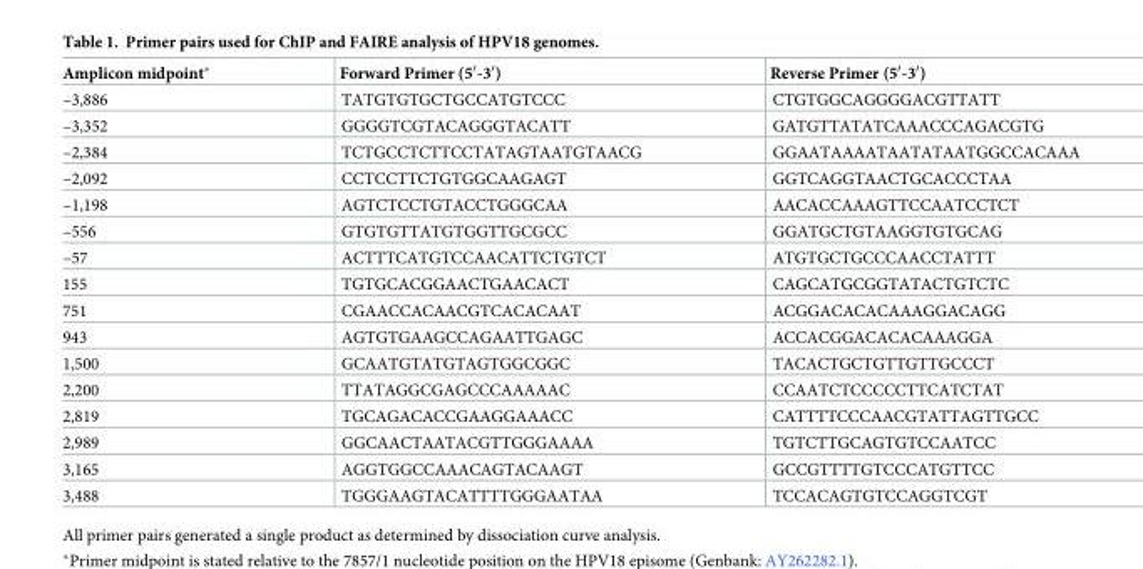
<table><thead><tr><td>Amplicon midpoint*</td><td>Forward Primer (5′-3′)</td><td>Reverse Primer (5′-3′)</td></tr></thead><tbody><tr><td>–3,886</td><td>TATGTGTGCTGCCATGTCCC</td><td>CTGTGGCAGGGGACGTTATT</td></tr><tr><td>–3,352</td><td>GGGGTCGTACAGGGTACATT</td><td>GATGTTATATCAAACCCAGACGTG</td></tr><tr><td>–2,384</td><td>TCTGCCTCTTCCTATAGTAATGTAACG</td><td>GGAATAAAATAATATAATGGCCACAAA</td></tr><tr><td>–2,092</td><td>CCTCCTTCTGTGGCAAGAGT</td><td>GGTCAGGTAACTGCACCCTAA</td></tr><tr><td>–1,198</td><td>AGTCTCCTGTACCTGGGCAA</td><td>AACACCAAAGTTCCAATCCTCT</td></tr><tr><td>–556</td><td>GTGTGTTATGTGGTTGCGCC</td><td>GGATGCTGTAAGGTGTGCAG</td></tr><tr><td>–57</td><td>ACTTTCATGTCCAACATTCTGTCT</td><td>ATGTGCTGCCCAACCTATTT</td></tr><tr><td>155</td><td>TGTGCACGGAACTGAACACT</td><td>CAGCATGCGGTATACTGTCTC</td></tr><tr><td>751</td><td>CGAACCACAACGTCACACAAT</td><td>ACGGACACACAAAGGACAGG</td></tr><tr><td>943</td><td>AGTGTGAAGCCAGAATTGAGC</td><td>ACCACGGACACACAAAGGA</td></tr><tr><td>1,500</td><td>GCAATGTATGTAGTGGCGGC</td><td>TACACTGCTGTTGTTGCCCT</td></tr><tr><td>2,200</td><td>TTATAGGCGAGCCCAAAAAC</td><td>CCAATCTCCCCCTTCATCTAT</td></tr><tr><td>2,819</td><td>TGCAGACACCGAAGGAAACC</td><td>CATTTTCCCAACGTATTAGTTGCC</td></tr><tr><td>2,989</td><td>GGCAACTAATACGTTGGGAAAA</td><td>TGTCTTGCAGTGTCCAATCC</td></tr><tr><td>3,165</td><td>AGGTGGCCAAACAGTACAAGT</td><td>GCCGTTTTGTCCCATGTTCC</td></tr><tr><td>3,488</td><td>TGGGAAGTACATTTTGGGAATAA</td><td>TCCACAGTGTCCAGGTCGT</td></tr></tbody></table>